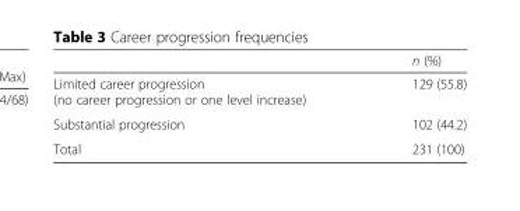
<table><thead><tr><td></td><td>n (%)</td></tr></thead><tbody><tr><td>Limited career progression (no career progression or one level increase)</td><td>129 (55.8)</td></tr><tr><td>Substantial progression</td><td>102 (44.2)</td></tr><tr><td>Total</td><td>231 (100)</td></tr></tbody></table>